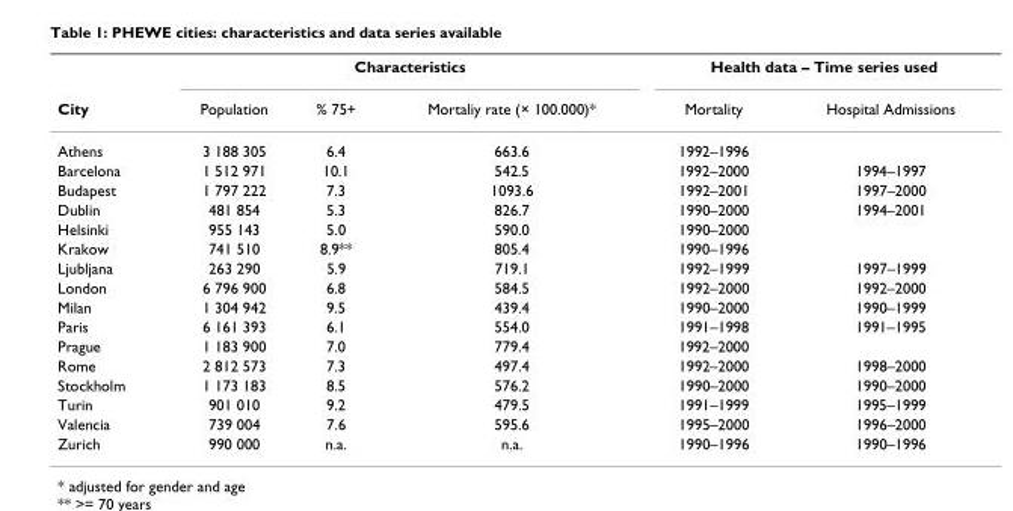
<table><thead><tr><td rowspan="2">City</td><td colspan="3">Characteristics</td><td colspan="2">Health data – Time series used</td></tr><tr><td>Population</td><td>% 75+</td><td>Mortaliy rate (× 100.000)*</td><td>Mortality</td><td>Hospital Admissions</td></tr></thead><tbody><tr><td>Athens</td><td>3 188 305</td><td>6.4</td><td>663.6</td><td>1992–1996</td><td></td></tr><tr><td>Barcelona</td><td>1 512 971</td><td>10.1</td><td>542.5</td><td>1992–2000</td><td>1994–1997</td></tr><tr><td>Budapest</td><td>1 797 222</td><td>7.3</td><td>1093.6</td><td>1992–2001</td><td>1997–2000</td></tr><tr><td>Dublin</td><td>481 854</td><td>5.3</td><td>826.7</td><td>1990–2000</td><td>1994–2001</td></tr><tr><td>Helsinki</td><td>955 143</td><td>5.0</td><td>590.0</td><td>1990–2000</td><td></td></tr><tr><td>Krakow</td><td>741 510</td><td>8.9**</td><td>805.4</td><td>1990–1996</td><td></td></tr><tr><td>Ljubljana</td><td>263 290</td><td>5.9</td><td>719.1</td><td>1992–1999</td><td>1997–1999</td></tr><tr><td>London</td><td>6 796 900</td><td>6.8</td><td>584.5</td><td>1992–2000</td><td>1992–2000</td></tr><tr><td>Milan</td><td>1 304 942</td><td>9.5</td><td>439.4</td><td>1990–2000</td><td>1990–1999</td></tr><tr><td>Paris</td><td>6 161 393</td><td>6.1</td><td>554.0</td><td>1991–1998</td><td>1991–1995</td></tr><tr><td>Prague</td><td>1 183 900</td><td>7.0</td><td>779.4</td><td>1992–2000</td><td></td></tr><tr><td>Rome</td><td>2 812 573</td><td>7.3</td><td>497.4</td><td>1992–2000</td><td>1998–2000</td></tr><tr><td>Stockholm</td><td>1 173 183</td><td>8.5</td><td>576.2</td><td>1990–2000</td><td>1990–2000</td></tr><tr><td>Turin</td><td>901 010</td><td>9.2</td><td>479.5</td><td>1991–1999</td><td>1995–1999</td></tr><tr><td>Valencia</td><td>739 004</td><td>7.6</td><td>595.6</td><td>1995–2000</td><td>1996–2000</td></tr><tr><td>Zurich</td><td>990 000</td><td>n.a.</td><td>n.a.</td><td>1990–1996</td><td>1990–1996</td></tr></tbody></table>